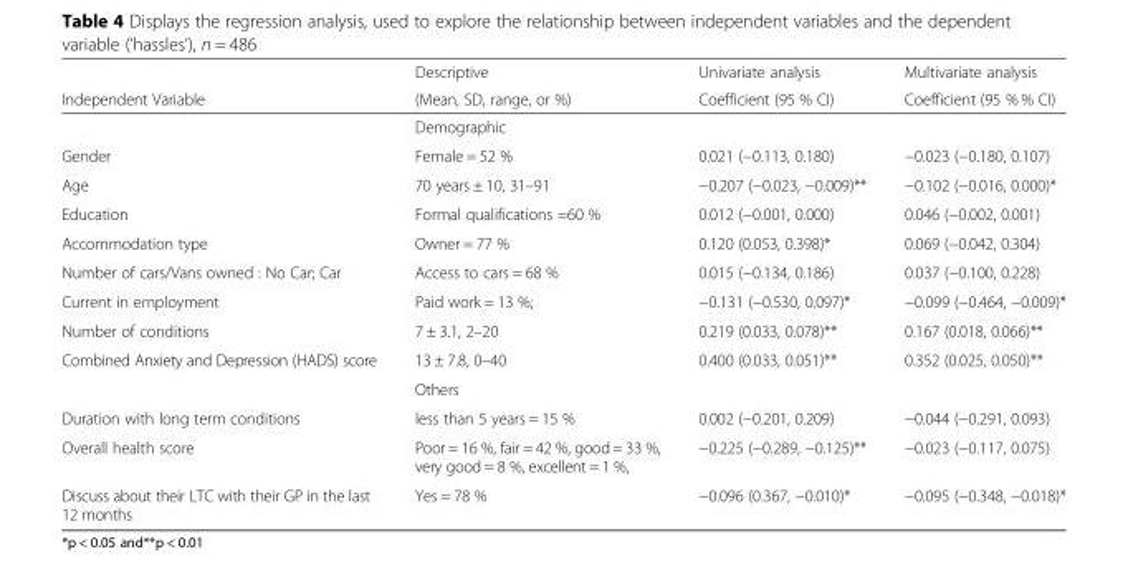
<table><thead><tr><td rowspan="2">Independent Variable</td><td rowspan="2">Descriptive (Mean, SD, range, or %)</td><td rowspan="2">Univariate analysis Coefficient (95 % CI)</td><td rowspan="2">Multivariate analysis Coefficient (95 % % CI)</td></tr><tr></tr></thead><tbody><tr><td></td><td>Demographic</td><td></td><td></td></tr><tr><td>Gender</td><td>Female = 52 %</td><td>0.021 (−0.113, 0.180)</td><td>−0.023 (−0.180, 0.107)</td></tr><tr><td>Age</td><td>70 years ± 10, 31–91</td><td>−0.207 (−0.023, −0.009)**</td><td>−0.102 (−0.016, 0.000)*</td></tr><tr><td>Education</td><td>Formal qualifications =60 %</td><td>0.012 (−0.001, 0.000)</td><td>0.046 (−0.002, 0.001)</td></tr><tr><td>Accommodation type</td><td>Owner = 77 %</td><td>0.120 (0.053, 0.398)*</td><td>0.069 (−0.042, 0.304)</td></tr><tr><td>Number of cars/Vans owned : No Car; Car</td><td>Access to cars = 68 %</td><td>0.015 (−0.134, 0.186)</td><td>0.037 (−0.100, 0.228)</td></tr><tr><td>Current in employment</td><td>Paid work = 13 %;</td><td>−0.131 (−0.530, 0.097)*</td><td>−0.099 (−0.464, −0.009)*</td></tr><tr><td>Number of conditions</td><td>7 ± 3.1, 2–20</td><td>0.219 (0.033, 0.078)**</td><td>0.167 (0.018, 0.066)**</td></tr><tr><td rowspan="2">Combined Anxiety and Depression (HADS) score</td><td>13 ± 7.8, 0–40</td><td>0.400 (0.033, 0.051)**</td><td>0.352 (0.025, 0.050)**</td></tr><tr><td>Others</td><td></td><td></td></tr><tr><td>Duration with long term conditions</td><td>less than 5 years = 15 %</td><td>0.002 (−0.201, 0.209)</td><td>−0.044 (−0.291, 0.093)</td></tr><tr><td>Overall health score</td><td>Poor = 16 %, fair = 42 %, good = 33 %, very good = 8 %, excellent = 1 %,</td><td>−0.225 (−0.289, −0.125)**</td><td>−0.023 (−0.117, 0.075)</td></tr><tr><td>Discuss about their LTC with their GP in the last 12 months</td><td>Yes = 78 %</td><td>−0.096 (0.367, −0.010)*</td><td>−0.095 (−0.348, −0.018)*</td></tr></tbody></table>